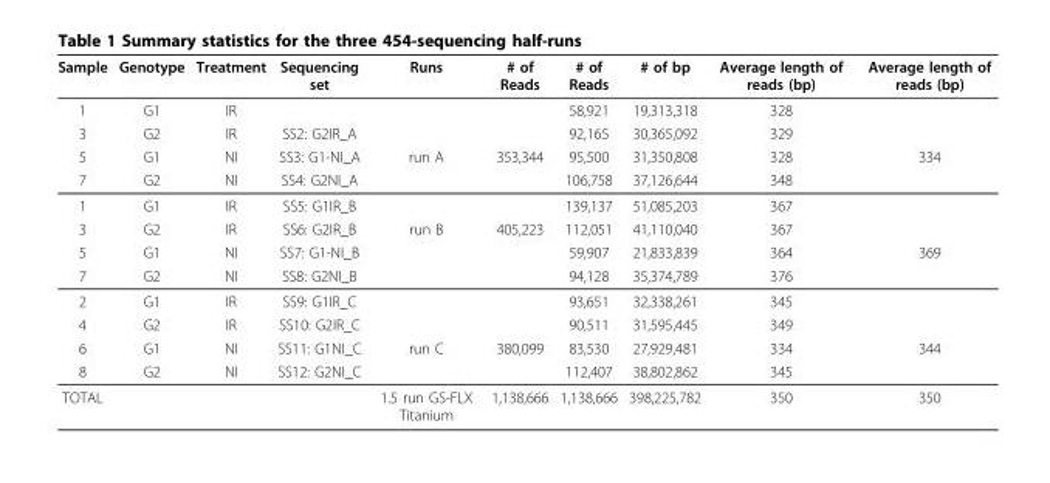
<table><thead><tr><td>Sample</td><td>Genotype</td><td>Treatment</td><td>Sequencing set</td><td>Runs</td><td># of Reads</td><td># of Reads</td><td># of bp</td><td>Average length of reads (bp)</td><td>Average length of reads (bp)</td></tr></thead><tbody><tr><td>1</td><td>G1</td><td>IR</td><td></td><td></td><td></td><td>58,921</td><td>19,313,318</td><td>328</td><td></td></tr><tr><td>3</td><td>G2</td><td>IR</td><td>SS2: G2IR_A</td><td></td><td></td><td>92,165</td><td>30,365,092</td><td>329</td><td></td></tr><tr><td>5</td><td>G1</td><td>NI</td><td>SS3: G1-NI_A</td><td>run A</td><td>353,344</td><td>95,500</td><td>31,350,808</td><td>328</td><td>334</td></tr><tr><td>7</td><td>G2</td><td>NI</td><td>SS4: G2NI_A</td><td></td><td></td><td>106,758</td><td>37,126,644</td><td>348</td><td></td></tr><tr><td>1</td><td>G1</td><td>IR</td><td>SS5: G1IR_B</td><td></td><td></td><td>139,137</td><td>51,085,203</td><td>367</td><td></td></tr><tr><td>3</td><td>G2</td><td>IR</td><td>SS6: G2IR_B</td><td>run B</td><td>405,223</td><td>112,051</td><td>41,110,040</td><td>367</td><td></td></tr><tr><td>5</td><td>G1</td><td>NI</td><td>SS7: G1-NI_B</td><td></td><td></td><td>59,907</td><td>21,833,839</td><td>364</td><td>369</td></tr><tr><td>7</td><td>G2</td><td>NI</td><td>SS8: G2NI_B</td><td></td><td></td><td>94,128</td><td>35,374,789</td><td>376</td><td></td></tr><tr><td>2</td><td>G1</td><td>IR</td><td>SS9: G1IR_C</td><td></td><td></td><td>93,651</td><td>32,338,261</td><td>345</td><td></td></tr><tr><td>4</td><td>G2</td><td>IR</td><td>SS10: G2IR_C</td><td></td><td></td><td>90,511</td><td>31,595,445</td><td>349</td><td></td></tr><tr><td>6</td><td>G1</td><td>NI</td><td>SS11: G1NI_C</td><td>run C</td><td>380,099</td><td>83,530</td><td>27,929,481</td><td>334</td><td>344</td></tr><tr><td>8</td><td>G2</td><td>NI</td><td>SS12: G2NI_C</td><td></td><td></td><td>112,407</td><td>38,802,862</td><td>345</td><td></td></tr><tr><td>TOTAL</td><td></td><td></td><td></td><td>1.5 run GS-FLX Titanium</td><td>1,138,666</td><td>1,138,666</td><td>398,225,782</td><td>350</td><td>350</td></tr></tbody></table>